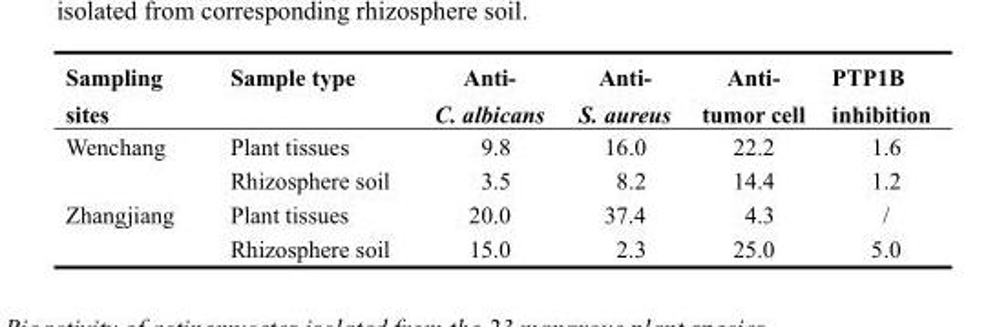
<table><thead><tr><td>Sampling sites</td><td>Sample type</td><td>Anti- C. albicans</td><td>Anti- S. aureus</td><td>Anti- tumor cell</td><td>PTP1B inhibition</td></tr></thead><tbody><tr><td rowspan="2">Wenchang</td><td>Plant tissues</td><td>9.8</td><td>16.0</td><td>22.2</td><td>1.6</td></tr><tr><td>Rhizosphere soil</td><td>3.5</td><td>8.2</td><td>14.4</td><td>1.2</td></tr><tr><td rowspan="2">Zhangjiang</td><td>Plant tissues</td><td>20.0</td><td>37.4</td><td>4.3</td><td>/</td></tr><tr><td>Rhizosphere soil</td><td>15.0</td><td>2.3</td><td>25.0</td><td>5.0</td></tr></tbody></table>